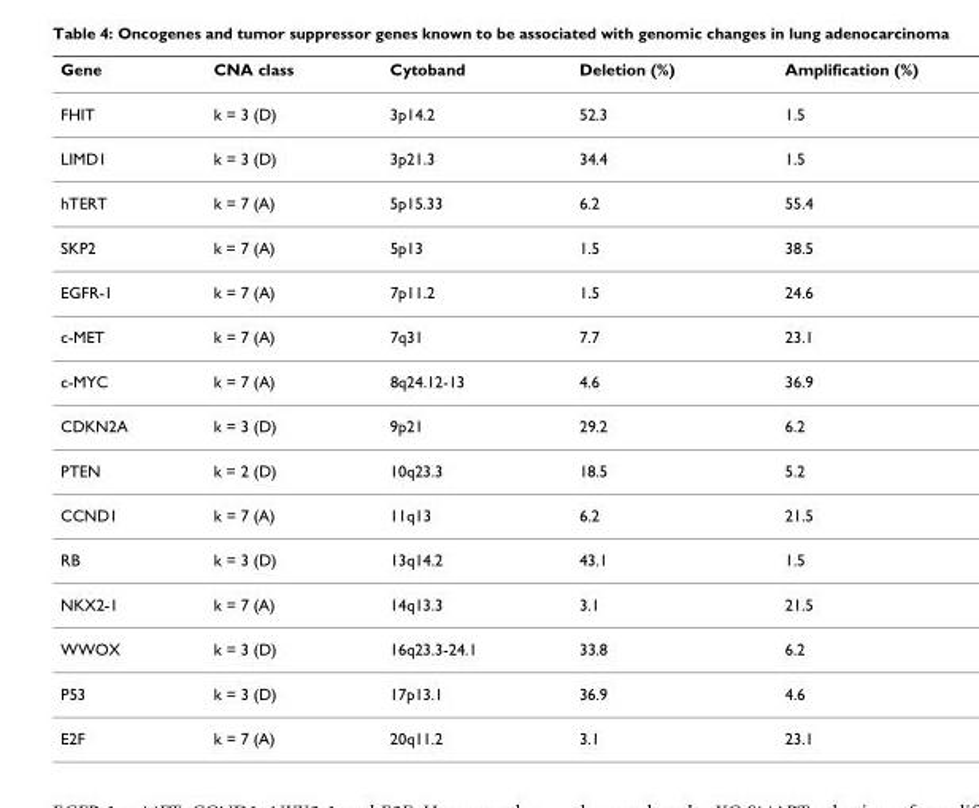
<table><thead><tr><td>Gene</td><td>CNA class</td><td>Cytoband</td><td>Deletion (%)</td><td>Amplification (%)</td></tr></thead><tbody><tr><td>FHIT</td><td>k = 3 (D)</td><td>3p14.2</td><td>52.3</td><td>1.5</td></tr><tr><td>LIMD1</td><td>k = 3 (D)</td><td>3p21.3</td><td>34.4</td><td>1.5</td></tr><tr><td>hTERT</td><td>k = 7 (A)</td><td>5p15.33</td><td>6.2</td><td>55.4</td></tr><tr><td>SKP2</td><td>k = 7 (A)</td><td>5p13</td><td>1.5</td><td>38.5</td></tr><tr><td>EGFR-1</td><td>k = 7 (A)</td><td>7p11.2</td><td>1.5</td><td>24.6</td></tr><tr><td>c-MET</td><td>k = 7 (A)</td><td>7q31</td><td>7.7</td><td>23.1</td></tr><tr><td>c-MYC</td><td>k = 7 (A)</td><td>8q24.12-13</td><td>4.6</td><td>36.9</td></tr><tr><td>CDKN2A</td><td>k = 3 (D)</td><td>9p21</td><td>29.2</td><td>6.2</td></tr><tr><td>PTEN</td><td>k = 2 (D)</td><td>10q23.3</td><td>18.5</td><td>5.2</td></tr><tr><td>CCND1</td><td>k = 7 (A)</td><td>11q13</td><td>6.2</td><td>21.5</td></tr><tr><td>RB</td><td>k = 3 (D)</td><td>13q14.2</td><td>43.1</td><td>1.5</td></tr><tr><td>NKX2-1</td><td>k = 7 (A)</td><td>14q13.3</td><td>3.1</td><td>21.5</td></tr><tr><td>WWOX</td><td>k = 3 (D)</td><td>16q23.3-24.1</td><td>33.8</td><td>6.2</td></tr><tr><td>P53</td><td>k = 3 (D)</td><td>17p13.1</td><td>36.9</td><td>4.6</td></tr><tr><td>E2F</td><td>k = 7 (A)</td><td>20q11.2</td><td>3.1</td><td>23.1</td></tr></tbody></table>